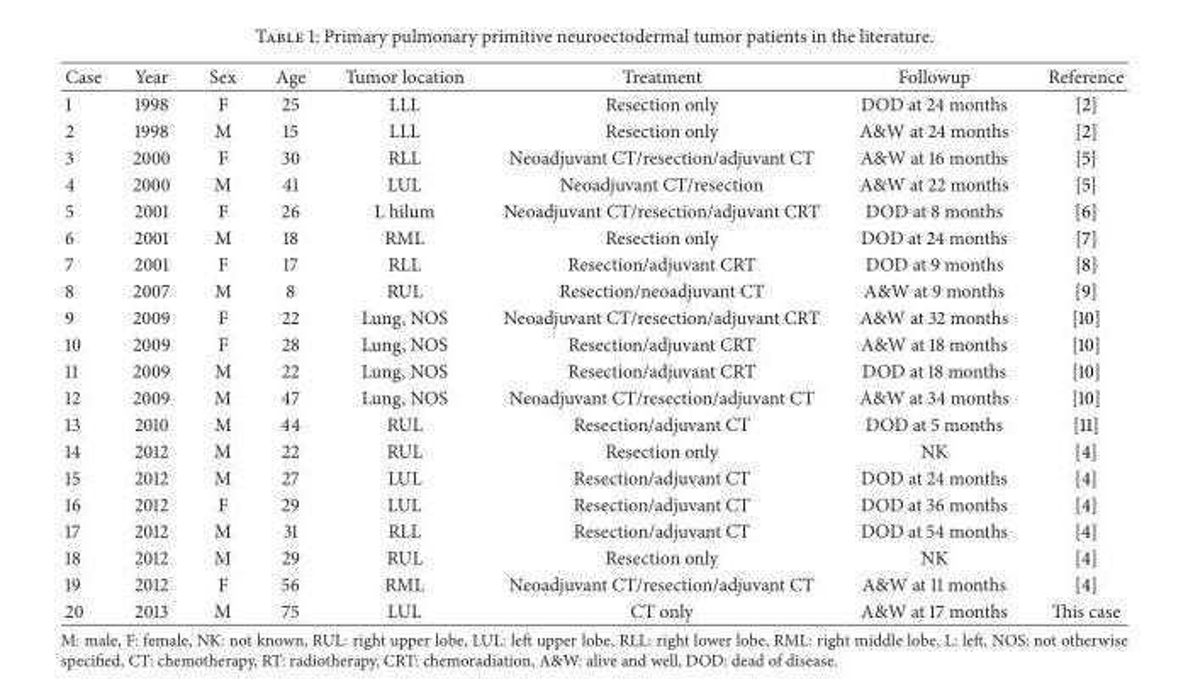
<table><thead><tr><td>Case</td><td>Year</td><td>Sex</td><td>Age</td><td>Tumor location</td><td>Treatment</td><td>Followup</td><td>Reference</td></tr></thead><tbody><tr><td>1</td><td>1998</td><td>F</td><td>25</td><td>LLL</td><td>Resection only</td><td>DOD at 24 months</td><td>[2]</td></tr><tr><td>2</td><td>1998</td><td>M</td><td>15</td><td>LLL</td><td>Resection only</td><td>A&amp;W at 24 months</td><td>[2]</td></tr><tr><td>3</td><td>2000</td><td>F</td><td>30</td><td>RLL</td><td>Neoadjuvant CT/resection/adjuvant CT</td><td>A&amp;W at 16 months</td><td>[5]</td></tr><tr><td>4</td><td>2000</td><td>M</td><td>41</td><td>LUL</td><td>Neoadjuvant CT/resection</td><td>A&amp;W at 22 months</td><td>[5]</td></tr><tr><td>5</td><td>2001</td><td>F</td><td>26</td><td>L hilum</td><td>Neoadjuvant CT/resection/adjuvant CRT</td><td>DOD at 8 months</td><td>[6]</td></tr><tr><td>6</td><td>2001</td><td>M</td><td>18</td><td>RML</td><td>Resection only</td><td>DOD at 24 months</td><td>[7]</td></tr><tr><td>7</td><td>2001</td><td>F</td><td>17</td><td>RLL</td><td>Resection/adjuvant CRT</td><td>DOD at 9 months</td><td>[8]</td></tr><tr><td>8</td><td>2007</td><td>M</td><td>8</td><td>RUL</td><td>Resection/neoadjuvant CT</td><td>A&amp;W at 9 months</td><td>[9]</td></tr><tr><td>9</td><td>2009</td><td>F</td><td>22</td><td>Lung, NOS</td><td>Neoadjuvant CT/resection/adjuvant CRT</td><td>A&amp;W at 32 months</td><td>[10]</td></tr><tr><td>10</td><td>2009</td><td>F</td><td>28</td><td>Lung, NOS</td><td>Resection/adjuvant CRT</td><td>A&amp;W at 18 months</td><td>[10]</td></tr><tr><td>11</td><td>2009</td><td>M</td><td>22</td><td>Lung, NOS</td><td>Resection/adjuvant CRT</td><td>DOD at 18 months</td><td>[10]</td></tr><tr><td>12</td><td>2009</td><td>M</td><td>47</td><td>Lung, NOS</td><td>Neoadjuvant CT/resection/adjuvant CT</td><td>A&amp;W at 34 months</td><td>[10]</td></tr><tr><td>13</td><td>2010</td><td>M</td><td>44</td><td>RUL</td><td>Resection/adjuvant CT</td><td>DOD at 5 months</td><td>[11]</td></tr><tr><td>14</td><td>2012</td><td>M</td><td>22</td><td>RUL</td><td>Resection only</td><td>NK</td><td>[4]</td></tr><tr><td>15</td><td>2012</td><td>M</td><td>27</td><td>LUL</td><td>Resection/adjuvant CT</td><td>DOD at 24 months</td><td>[4]</td></tr><tr><td>16</td><td>2012</td><td>F</td><td>29</td><td>LUL</td><td>Resection/adjuvant CT</td><td>DOD at 36 months</td><td>[4]</td></tr><tr><td>17</td><td>2012</td><td>M</td><td>31</td><td>RLL</td><td>Resection/adjuvant CT</td><td>DOD at 54 months</td><td>[4]</td></tr><tr><td>18</td><td>2012</td><td>M</td><td>29</td><td>RUL</td><td>Resection only</td><td>NK</td><td>[4]</td></tr><tr><td>19</td><td>2012</td><td>F</td><td>56</td><td>RML</td><td>Neoadjuvant CT/resection/adjuvant CT</td><td>A&amp;W at 11 months</td><td>[4]</td></tr><tr><td>20</td><td>2013</td><td>M</td><td>75</td><td>LUL</td><td>CT only</td><td>A&amp;W at 17 months</td><td>This case</td></tr></tbody></table>